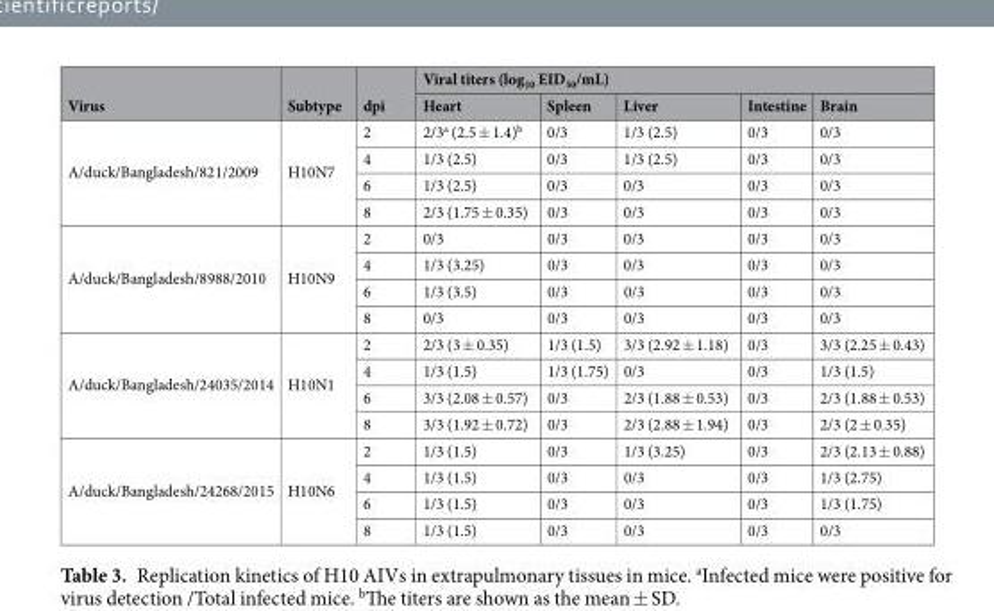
<table><thead><tr><td rowspan="2">Virus</td><td rowspan="2">Subtype</td><td rowspan="2">dpi</td><td colspan="5">Viral titers (log<sub>10</sub> EID<sub>50</sub>/mL)</td></tr><tr><td>Heart</td><td>Spleen</td><td>Liver</td><td>Intestine</td><td>Brain</td></tr></thead><tbody><tr><td rowspan="4">A/duck/Bangladesh/821/2009</td><td rowspan="4">H10N7</td><td>2</td><td>2/3<sup>a</sup> (2.5 ± 1.4)<sup>b</sup></td><td>0/3</td><td>1/3 (2.5)</td><td>0/3</td><td>0/3</td></tr><tr><td>4</td><td>1/3 (2.5)</td><td>0/3</td><td>1/3 (2.5)</td><td>0/3</td><td>0/3</td></tr><tr><td>6</td><td>1/3 (2.5)</td><td>0/3</td><td>0/3</td><td>0/3</td><td>0/3</td></tr><tr><td>8</td><td>2/3 (1.75 ± 0.35)</td><td>0/3</td><td>0/3</td><td>0/3</td><td>0/3</td></tr><tr><td rowspan="4">A/duck/Bangladesh/8988/2010</td><td rowspan="4">H10N9</td><td>2</td><td>0/3</td><td>0/3</td><td>0/3</td><td>0/3</td><td>0/3</td></tr><tr><td>4</td><td>1/3 (3.25)</td><td>0/3</td><td>0/3</td><td>0/3</td><td>0/3</td></tr><tr><td>6</td><td>1/3 (3.5)</td><td>0/3</td><td>0/3</td><td>0/3</td><td>0/3</td></tr><tr><td>8</td><td>0/3</td><td>0/3</td><td>0/3</td><td>0/3</td><td>0/3</td></tr><tr><td rowspan="4">A/duck/Bangladesh/24035/2014</td><td rowspan="4">H10N1</td><td>2</td><td>2/3 (3 ± 0.35)</td><td>1/3 (1.5)</td><td>3/3 (2.92 ± 1.18)</td><td>0/3</td><td>3/3 (2.25 ± 0.43)</td></tr><tr><td>4</td><td>1/3 (1.5)</td><td>1/3 (1.75)</td><td>0/3</td><td>0/3</td><td>1/3 (1.5)</td></tr><tr><td>6</td><td>3/3 (2.08 ± 0.57)</td><td>0/3</td><td>2/3 (1.88 ± 0.53)</td><td>0/3</td><td>2/3 (1.88 ± 0.53)</td></tr><tr><td>8</td><td>3/3 (1.92 ± 0.72)</td><td>0/3</td><td>2/3 (2.88 ± 1.94)</td><td>0/3</td><td>2/3 (2 ± 0.35)</td></tr><tr><td rowspan="4">A/duck/Bangladesh/24268/2015</td><td rowspan="4">H10N6</td><td>2</td><td>1/3 (1.5)</td><td>0/3</td><td>1/3 (3.25)</td><td>0/3</td><td>2/3 (2.13 ± 0.88)</td></tr><tr><td>4</td><td>1/3 (1.5)</td><td>0/3</td><td>0/3</td><td>0/3</td><td>1/3 (2.75)</td></tr><tr><td>6</td><td>1/3 (1.5)</td><td>0/3</td><td>0/3</td><td>0/3</td><td>1/3 (1.75)</td></tr><tr><td>8</td><td>1/3 (1.5)</td><td>0/3</td><td>0/3</td><td>0/3</td><td>0/3</td></tr></tbody></table>